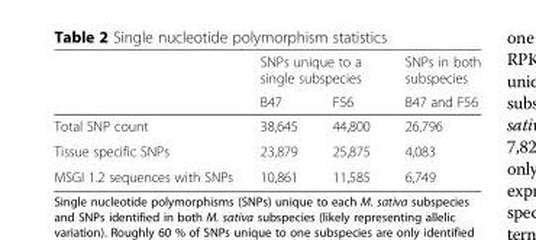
<table><thead><tr><td rowspan="2"></td><td colspan="2">SNPs unique to a single subspecies</td><td rowspan="2">SNPs in both subspecies B47 and F56</td></tr><tr><td>B47</td><td>F56</td></tr></thead><tbody><tr><td>Total SNP count</td><td>38,645</td><td>44,800</td><td>26,796</td></tr><tr><td>Tissue specific SNPs</td><td>23,879</td><td>25,875</td><td>4,083</td></tr><tr><td>MSGI 1.2 sequences with SNPs</td><td>10,861</td><td>11,585</td><td>6,749</td></tr></tbody></table>